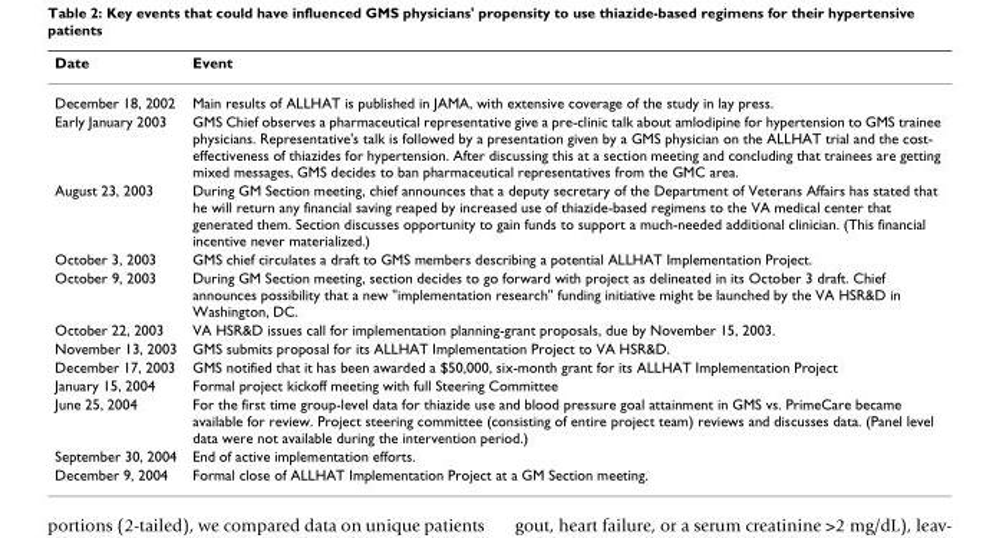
<table><thead><tr><td>Date</td><td>Event</td></tr></thead><tbody><tr><td>December 18, 2002</td><td>Main results of ALLHAT is published in JAMA, with extensive coverage of the study in lay press.</td></tr><tr><td>Early January 2003</td><td>GMS Chief observes a pharmaceutical representative give a pre-clinic talk about amlodipine for hypertension to GMS trainee physicians. Representative&#x27;s talk is followed by a presentation given by a GMS physician on the ALLHAT trial and the cost- effectiveness of thiazides for hypertension. After discussing this at a section meeting and concluding that trainees are getting mixed messages, GMS decides to ban pharmaceutical representatives from the GMC area.</td></tr><tr><td>August 23, 2003</td><td>During GM Section meeting, chief announces that a deputy secretary of the Department of Veterans Affairs has stated that he will return any financial saving reaped by increased use of thiazide-based regimens to the VA medical center that generated them. Section discusses opportunity to gain funds to support a much-needed additional clinician. (This financial incentive never materialized.)</td></tr><tr><td>October 3, 2003</td><td>GMS chief circulates a draft to GMS members describing a potential ALLHAT Implementation Project.</td></tr><tr><td>October 9, 2003</td><td>During GM Section meeting, section decides to go forward with project as delineated in its October 3 draft. Chief announces possibility that a new &quot;implementation research&quot; funding initiative might be launched by the VA HSR&amp;D in Washington, DC.</td></tr><tr><td>October 22, 2003</td><td>VA HSR&amp;D issues call for implementation planning-grant proposals, due by November 15, 2003.</td></tr><tr><td>November 13, 2003</td><td>GMS submits proposal for its ALLHAT Implementation Project to VA HSR&amp;D.</td></tr><tr><td>December 17, 2003</td><td>GMS notified that it has been awarded a $50,000, six-month grant for its ALLHAT Implementation Project</td></tr><tr><td>January 15, 2004</td><td>Formal project kickoff meeting with full Steering Committee</td></tr><tr><td>June 25, 2004</td><td>For the first time group-level data for thiazide use and blood pressure goal attainment in GMS vs. PrimeCare became available for review. Project steering committee (consisting of entire project team) reviews and discusses data. (Panel level data were not available during the intervention period.)</td></tr><tr><td>September 30, 2004</td><td>End of active implementation efforts.</td></tr><tr><td>December 9, 2004</td><td>Formal close of ALLHAT Implementation Project at a GM Section meeting.</td></tr></tbody></table>